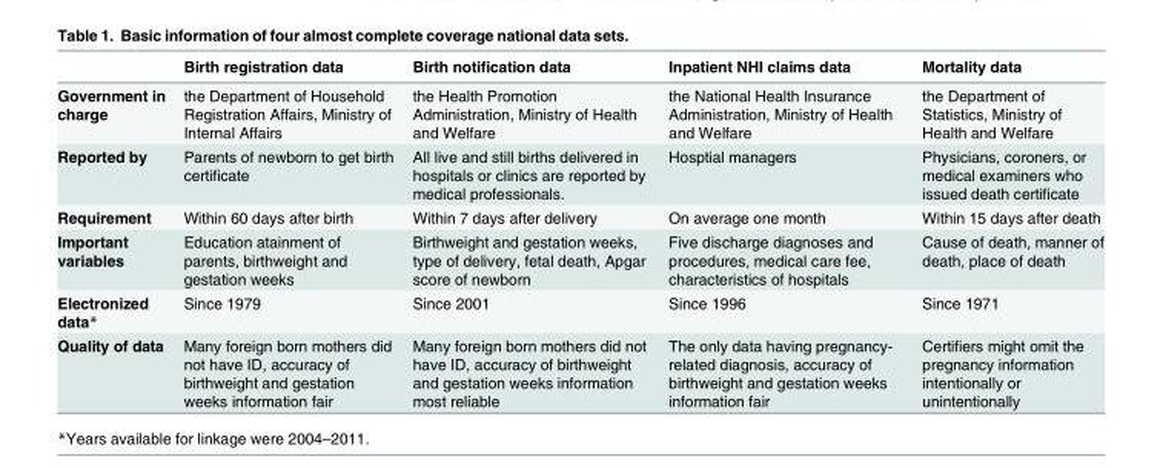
<table><thead><tr><td></td><td>Birth registration data</td><td>Birth notification data</td><td>Inpatient NHI claims data</td><td>Mortality data</td></tr></thead><tbody><tr><td>Government in charge</td><td>the Department of Household Registration Affairs, Ministry of Internal Affairs</td><td>the Health Promotion Administration, Ministry of Health and Welfare</td><td>the National Health Insurance Administration, Ministry of Health and Welfare</td><td>the Department of Statistics, Ministry of Health and Welfare</td></tr><tr><td>Reported by</td><td>Parents of newborn to get birth certificate</td><td>All live and still births delivered in hospitals or clinics are reported by medical professionals.</td><td>Hosptial managers</td><td>Physicians, coroners, or medical examiners who issued death certificate</td></tr><tr><td>Requirement</td><td>Within 60 days after birth</td><td>Within 7 days after delivery</td><td>On average one month</td><td>Within 15 days after death</td></tr><tr><td>Important variables</td><td>Education atainment of parents, birthweight and gestation weeks</td><td>Birthweight and gestation weeks, type of delivery, fetal death, Apgar score of newborn</td><td>Five discharge diagnoses and procedures, medical care fee, characteristics of hospitals</td><td>Cause of death, manner of death, place of death</td></tr><tr><td>Electronized data*</td><td>Since 1979</td><td>Since 2001</td><td>Since 1996</td><td>Since 1971</td></tr><tr><td>Quality of data</td><td>Many foreign born mothers did not have ID, accuracy of birthweight and gestation weeks information fair</td><td>Many foreign born mothers did not have ID, accuracy of birthweight and gestation weeks information most reliable</td><td>The only data having pregnancy- related diagnosis, accuracy of birthweight and gestation weeks information fair</td><td>Certifiers might omit the pregnancy information intentionally or unintentionally</td></tr></tbody></table>